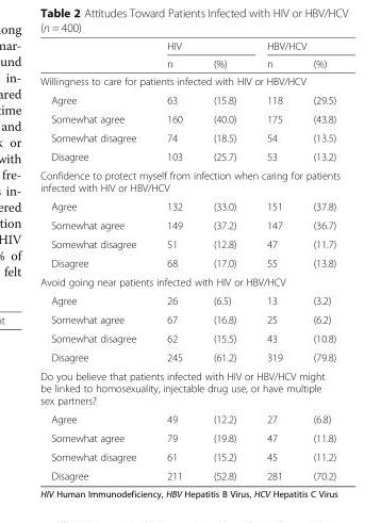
<table><thead><tr><td rowspan="2"></td><td colspan="2">HIV</td><td colspan="2">HBV/HCV</td></tr><tr><td>n</td><td>(%)</td><td>n</td><td>(%)</td></tr></thead><tbody><tr><td colspan="5">Willingness to care for patients infected with HIV or HBV/HCV</td></tr><tr><td>Agree</td><td>63</td><td>(15.8)</td><td>118</td><td>(29.5)</td></tr><tr><td>Somewhat agree</td><td>160</td><td>(40.0)</td><td>175</td><td>(43.8)</td></tr><tr><td>Somewhat disagree</td><td>74</td><td>(18.5)</td><td>54</td><td>(13.5)</td></tr><tr><td>Disagree</td><td>103</td><td>(25.7)</td><td>53</td><td>(13.2)</td></tr><tr><td colspan="5">Confidence to protect myself from infection when caring for patients infected with HIV or HBV/HCV</td></tr><tr><td>Agree</td><td>132</td><td>(33.0)</td><td>151</td><td>(37.8)</td></tr><tr><td>Somewhat agree</td><td>149</td><td>(37.2)</td><td>147</td><td>(36.7)</td></tr><tr><td>Somewhat disagree</td><td>51</td><td>(12.8)</td><td>47</td><td>(11.7)</td></tr><tr><td>Disagree</td><td>68</td><td>(17.0)</td><td>55</td><td>(13.8)</td></tr><tr><td colspan="5">Avoid going near patients infected with HIV or HBV/HCV</td></tr><tr><td>Agree</td><td>26</td><td>(6.5)</td><td>13</td><td>(3.2)</td></tr><tr><td>Somewhat agree</td><td>67</td><td>(16.8)</td><td>25</td><td>(6.2)</td></tr><tr><td>Somewhat disagree</td><td>62</td><td>(15.5)</td><td>43</td><td>(10.8)</td></tr><tr><td>Disagree</td><td>245</td><td>(61.2)</td><td>319</td><td>(79.8)</td></tr><tr><td colspan="5">Do you believe that patients infected with HIV or HBV/HCV might be linked to homosexuality, injectable drug use, or have multiple sex partners?</td></tr><tr><td>Agree</td><td>49</td><td>(12.2)</td><td>27</td><td>(6.8)</td></tr><tr><td>Somewhat agree</td><td>79</td><td>(19.8)</td><td>47</td><td>(11.8)</td></tr><tr><td>Somewhat disagree</td><td>61</td><td>(15.2)</td><td>45</td><td>(11.2)</td></tr><tr><td>Disagree</td><td>211</td><td>(52.8)</td><td>281</td><td>(70.2)</td></tr></tbody></table>